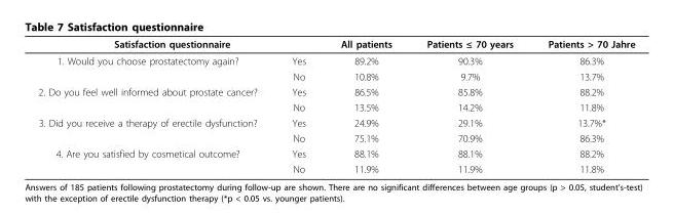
<table><thead><tr><td colspan="2">Satisfaction questionnaire</td><td rowspan="2">All patients 89.2%</td><td rowspan="2">Patients ≤ 70 years 90.3%</td><td rowspan="2">Patients &gt; 70 Jahre 86.3%</td></tr><tr><td>1. Would you choose prostatectomy again?</td><td>Yes</td></tr></thead><tbody><tr><td></td><td>No</td><td>10.8%</td><td>9.7%</td><td>13.7%</td></tr><tr><td rowspan="2">2. Do you feel well informed about prostate cancer?</td><td>Yes</td><td>86.5%</td><td>85.8%</td><td>88.2%</td></tr><tr><td>No</td><td>13.5%</td><td>14.2%</td><td>11.8%</td></tr><tr><td rowspan="2">3. Did you receive a therapy of erectile dysfunction?</td><td>Yes</td><td>24.9%</td><td>29.1%</td><td>13.7%*</td></tr><tr><td>No</td><td>75.1%</td><td>70.9%</td><td>86.3%</td></tr><tr><td rowspan="2">4. Are you satisfied by cosmetical outcome?</td><td>Yes</td><td>88.1%</td><td>88.1%</td><td>88.2%</td></tr><tr><td>No</td><td>11.9%</td><td>11.9%</td><td>11.8%</td></tr></tbody></table>